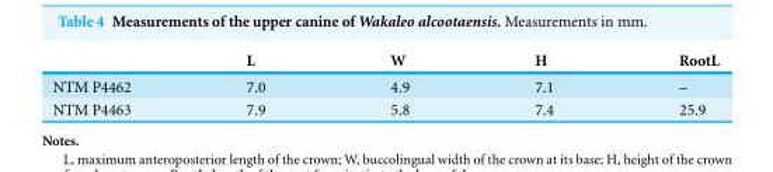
<table><thead><tr><td></td><td>L</td><td>W</td><td>H</td><td>RootL</td></tr></thead><tbody><tr><td>NTM P4462</td><td>7.0</td><td>4.9</td><td>7.1</td><td>–</td></tr><tr><td>NTM P4463</td><td>7.9</td><td>5.8</td><td>7.4</td><td>25.9</td></tr></tbody></table>